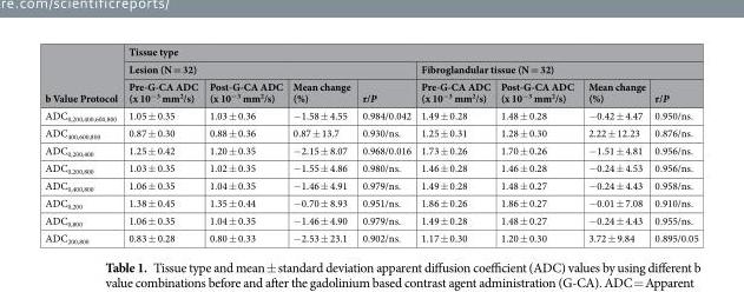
<table><thead><tr><td rowspan="3">b Value Protocol</td><td colspan="8">Tissue type</td></tr><tr><td colspan="4">Lesion (N = 32)</td><td colspan="4">Fibroglandular tissue (N = 32)</td></tr><tr><td>Pre-G-CA ADC (x 10<sup>−3</sup> mm<sup>2</sup>/s)</td><td>Post-G-CA ADC (x 10<sup>−3</sup> mm<sup>2</sup>/s)</td><td>Mean change (%)</td><td>r/P</td><td>Pre-G-CA ADC (x 10<sup>−3</sup> mm<sup>2</sup>/s)</td><td>Post-G-CA ADC (x 10<sup>−3</sup> mm<sup>2</sup>/s)</td><td>Mean change (%)</td><td>r/P</td></tr></thead><tbody><tr><td>ADC<sub>0,200,400,600,800</sub></td><td>1.05 ± 0.35</td><td>1.03 ± 0.36</td><td>−1.58 ± 4.55</td><td>0.984/0.042</td><td>1.49 ± 0.28</td><td>1.48 ± 0.28</td><td>−0.42 ± 4.47</td><td>0.950/ns.</td></tr><tr><td>ADC<sub>400,600,800</sub></td><td>0.87 ± 0.30</td><td>0.88 ± 0.36</td><td>0.87 ± 13.7</td><td>0.930/ns.</td><td>1.25 ± 0.31</td><td>1.28 ± 0.30</td><td>2.22 ± 12.23</td><td>0.876/ns.</td></tr><tr><td>ADC<sub>0,200,400</sub></td><td>1.25 ± 0.42</td><td>1.20 ± 0.35</td><td>−2.15 ± 8.07</td><td>0.968/0.016</td><td>1.73 ± 0.26</td><td>1.70 ± 0.26</td><td>−1.51 ± 4.81</td><td>0.956/ns.</td></tr><tr><td>ADC<sub>0,200,800</sub></td><td>1.03 ± 0.35</td><td>1.02 ± 0.35</td><td>−1.55 ± 4.86</td><td>0.980/ns.</td><td>1.46 ± 0.28</td><td>1.46 ± 0.28</td><td>−0.24 ± 4.53</td><td>0.956/ns.</td></tr><tr><td>ADC<sub>0,400,800</sub></td><td>1.06 ± 0.35</td><td>1.04 ± 0.35</td><td>−1.46 ± 4.91</td><td>0.979/ns.</td><td>1.49 ± 0.28</td><td>1.48 ± 0.27</td><td>−0.24 ± 4.43</td><td>0.958/ns.</td></tr><tr><td>ADC<sub>0,200</sub></td><td>1.38 ± 0.45</td><td>1.35 ± 0.44</td><td>−0.70 ± 8.93</td><td>0.951/ns.</td><td>1.86 ± 0.26</td><td>1.86 ± 0.27</td><td>−0.01 ± 7.08</td><td>0.910/ns.</td></tr><tr><td>ADC<sub>0,800</sub></td><td>1.06 ± 0.35</td><td>1.04 ± 0.35</td><td>−1.46 ± 4.90</td><td>0.979/ns.</td><td>1.49 ± 0.28</td><td>1.48 ± 0.27</td><td>−0.24 ± 4.43</td><td>0.955/ns.</td></tr><tr><td>ADC<sub>200,800</sub></td><td>0.83 ± 0.28</td><td>0.80 ± 0.33</td><td>−2.53 ± 23.1</td><td>0.902/ns.</td><td>1.17 ± 0.30</td><td>1.20 ± 0.30</td><td>3.72 ± 9.84</td><td>0.895/0.05</td></tr></tbody></table>